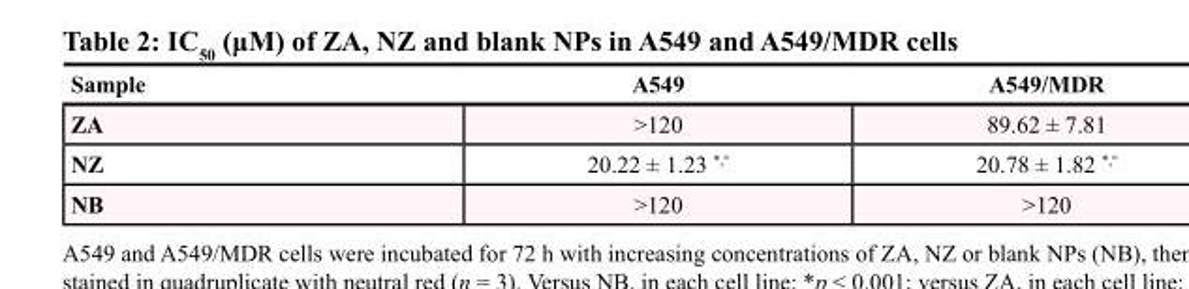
<table><thead><tr><td>Sample</td><td>A549</td><td>A549/MDR</td></tr></thead><tbody><tr><td>ZA</td><td>&gt;120</td><td>89.62 ± 7.81</td></tr><tr><td>NZ</td><td>20.22 ± 1.23 *,°</td><td>20.78 ± 1.82 *,°</td></tr><tr><td>NB</td><td>&gt;120</td><td>&gt;120</td></tr></tbody></table>